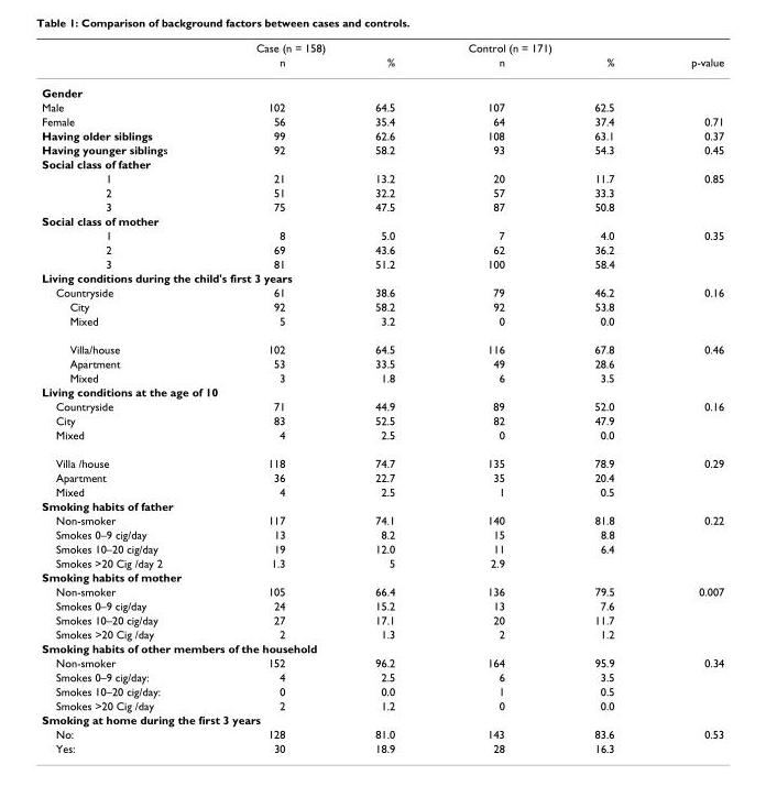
<table><thead><tr><td rowspan="2"></td><td colspan="2">Case (n = 158)</td><td colspan="2">Control (n = 171)</td><td rowspan="2">p-value</td></tr><tr><td>n</td><td>%</td><td>n</td><td>%</td></tr></thead><tbody><tr><td colspan="6">Gender</td></tr><tr><td>Male</td><td>102</td><td>64.5</td><td>107</td><td>62.5</td><td></td></tr><tr><td>Female</td><td>56</td><td>35.4</td><td>64</td><td>37.4</td><td>0.71</td></tr><tr><td>Having older siblings</td><td>99</td><td>62.6</td><td>108</td><td>63.1</td><td>0.37</td></tr><tr><td>Having younger siblings</td><td>92</td><td>58.2</td><td>93</td><td>54.3</td><td>0.45</td></tr><tr><td colspan="6">Social class of father</td></tr><tr><td>1</td><td>21</td><td>13.2</td><td>20</td><td>11.7</td><td>0.85</td></tr><tr><td>2</td><td>51</td><td>32.2</td><td>57</td><td>33.3</td><td></td></tr><tr><td>3</td><td>75</td><td>47.5</td><td>87</td><td>50.8</td><td></td></tr><tr><td colspan="6">Social class of mother</td></tr><tr><td>1</td><td>8</td><td>5.0</td><td>7</td><td>4.0</td><td>0.35</td></tr><tr><td>2</td><td>69</td><td>43.6</td><td>62</td><td>36.2</td><td></td></tr><tr><td>3</td><td>81</td><td>51.2</td><td>100</td><td>58.4</td><td></td></tr><tr><td colspan="6">Living conditions during the child&#x27;s first 3 years</td></tr><tr><td>Countryside</td><td>61</td><td>38.6</td><td>79</td><td>46.2</td><td>0.16</td></tr><tr><td>City</td><td>92</td><td>58.2</td><td>92</td><td>53.8</td><td></td></tr><tr><td>Mixed</td><td>5</td><td>3.2</td><td>0</td><td>0.0</td><td></td></tr><tr><td>Villa/house</td><td>102</td><td>64.5</td><td>116</td><td>67.8</td><td>0.46</td></tr><tr><td>Apartment</td><td>53</td><td>33.5</td><td>49</td><td>28.6</td><td></td></tr><tr><td>Mixed</td><td>3</td><td>1.8</td><td>6</td><td>3.5</td><td></td></tr><tr><td colspan="6">Living conditions at the age of 10</td></tr><tr><td>Countryside</td><td>71</td><td>44.9</td><td>89</td><td>52.0</td><td>0.16</td></tr><tr><td>City</td><td>83</td><td>52.5</td><td>82</td><td>47.9</td><td></td></tr><tr><td>Mixed</td><td>4</td><td>2.5</td><td>0</td><td>0.0</td><td></td></tr><tr><td>Villa /house</td><td>118</td><td>74.7</td><td>135</td><td>78.9</td><td>0.29</td></tr><tr><td>Apartment</td><td>36</td><td>22.7</td><td>35</td><td>20.4</td><td></td></tr><tr><td>Mixed</td><td>4</td><td>2.5</td><td>1</td><td>0.5</td><td></td></tr><tr><td colspan="6">Smoking habits of father</td></tr><tr><td>Non-smoker</td><td>117</td><td>74.1</td><td>140</td><td>81.8</td><td>0.22</td></tr><tr><td>Smokes 0–9 cig/day</td><td>13</td><td>8.2</td><td>15</td><td>8.8</td><td></td></tr><tr><td>Smokes 10–20 cig/day</td><td>19</td><td>12.0</td><td>11</td><td>6.4</td><td></td></tr><tr><td>Smokes &gt;20 Cig /day 2</td><td>1.3</td><td>5</td><td>2.9</td><td></td><td></td></tr><tr><td colspan="6">Smoking habits of mother</td></tr><tr><td>Non-smoker</td><td>105</td><td>66.4</td><td>136</td><td>79.5</td><td>0.007</td></tr><tr><td>Smokes 0–9 cig/day</td><td>24</td><td>15.2</td><td>13</td><td>7.6</td><td></td></tr><tr><td>Smokes 10–20 cig/day</td><td>27</td><td>17.1</td><td>20</td><td>11.7</td><td></td></tr><tr><td>Smokes &gt;20 Cig /day</td><td>2</td><td>1.3</td><td>2</td><td>1.2</td><td></td></tr><tr><td colspan="6">Smoking habits of other members of the household</td></tr><tr><td>Non-smoker</td><td>152</td><td>96.2</td><td>164</td><td>95.9</td><td>0.34</td></tr><tr><td>Smokes 0–9 cig/day:</td><td>4</td><td>2.5</td><td>6</td><td>3.5</td><td></td></tr><tr><td>Smokes 10–20 cig/day:</td><td>0</td><td>0.0</td><td>1</td><td>0.5</td><td></td></tr><tr><td>Smokes &gt;20 Cig /day</td><td>2</td><td>1.2</td><td>0</td><td>0.0</td><td></td></tr><tr><td colspan="6">Smoking at home during the first 3 years</td></tr><tr><td>No:</td><td>128</td><td>81.0</td><td>143</td><td>83.6</td><td>0.53</td></tr><tr><td>Yes:</td><td>30</td><td>18.9</td><td>28</td><td>16.3</td><td></td></tr></tbody></table>